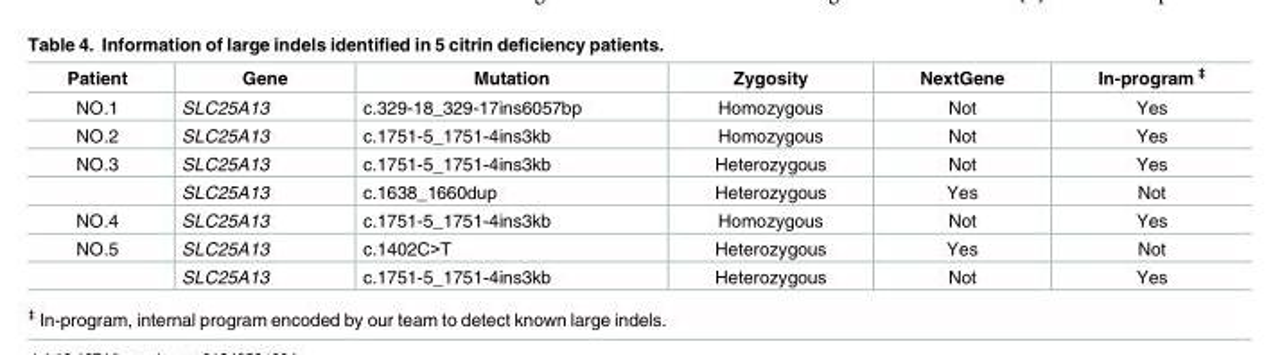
<table><thead><tr><td>Patient</td><td>Gene</td><td>Mutation</td><td>Zygosity</td><td>NextGene</td><td>In-program <sup>‡</sup></td></tr></thead><tbody><tr><td>NO.1</td><td>SLC25A13</td><td>c.329-18_329-17ins6057bp</td><td>Homozygous</td><td>Not</td><td>Yes</td></tr><tr><td>NO.2</td><td>SLC25A13</td><td>c.1751-5_1751-4ins3kb</td><td>Homozygous</td><td>Not</td><td>Yes</td></tr><tr><td rowspan="2">NO.3</td><td>SLC25A13</td><td>c.1751-5_1751-4ins3kb</td><td>Heterozygous</td><td>Not</td><td>Yes</td></tr><tr><td>SLC25A13</td><td>c.1638_1660dup</td><td>Heterozygous</td><td>Yes</td><td>Not</td></tr><tr><td>NO.4</td><td>SLC25A13</td><td>c.1751-5_1751-4ins3kb</td><td>Homozygous</td><td>Not</td><td>Yes</td></tr><tr><td rowspan="2">NO.5</td><td>SLC25A13</td><td>c.1402C&gt;T</td><td>Heterozygous</td><td>Yes</td><td>Not</td></tr><tr><td>SLC25A13</td><td>c.1751-5_1751-4ins3kb</td><td>Heterozygous</td><td>Not</td><td>Yes</td></tr></tbody></table>